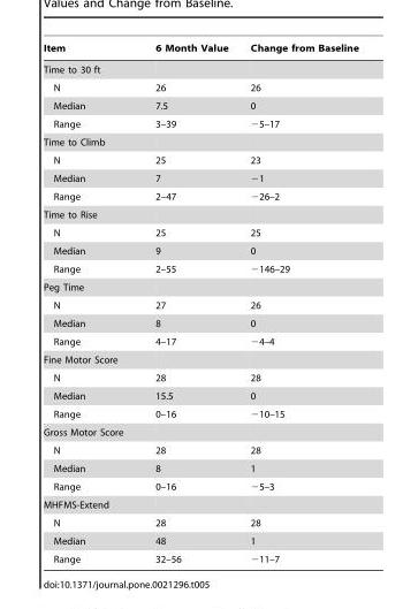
<table><thead><tr><td>Item</td><td>6 Month Value</td><td>Change from Baseline</td></tr></thead><tbody><tr><td colspan="3">Time to 30 ft</td></tr><tr><td>N</td><td>26</td><td>26</td></tr><tr><td>Median</td><td>7.5</td><td>0</td></tr><tr><td>Range</td><td>3–39</td><td>−5–17</td></tr><tr><td colspan="3">Time to Climb</td></tr><tr><td>N</td><td>25</td><td>23</td></tr><tr><td>Median</td><td>7</td><td>−1</td></tr><tr><td>Range</td><td>2–47</td><td>−26–2</td></tr><tr><td colspan="3">Time to Rise</td></tr><tr><td>N</td><td>25</td><td>25</td></tr><tr><td>Median</td><td>9</td><td>0</td></tr><tr><td>Range</td><td>2–55</td><td>−146–29</td></tr><tr><td colspan="3">Peg Time</td></tr><tr><td>N</td><td>27</td><td>26</td></tr><tr><td>Median</td><td>8</td><td>0</td></tr><tr><td>Range</td><td>4–17</td><td>−4–4</td></tr><tr><td colspan="3">Fine Motor Score</td></tr><tr><td>N</td><td>28</td><td>28</td></tr><tr><td>Median</td><td>15.5</td><td>0</td></tr><tr><td>Range</td><td>0–16</td><td>−10–15</td></tr><tr><td colspan="3">Gross Motor Score</td></tr><tr><td>N</td><td>28</td><td>28</td></tr><tr><td>Median</td><td>8</td><td>1</td></tr><tr><td>Range</td><td>0–16</td><td>−5–3</td></tr><tr><td colspan="3">MHFMS-Extend</td></tr><tr><td>N</td><td>28</td><td>28</td></tr><tr><td>Median</td><td>48</td><td>1</td></tr><tr><td>Range</td><td>32–56</td><td>−11–7</td></tr></tbody></table>